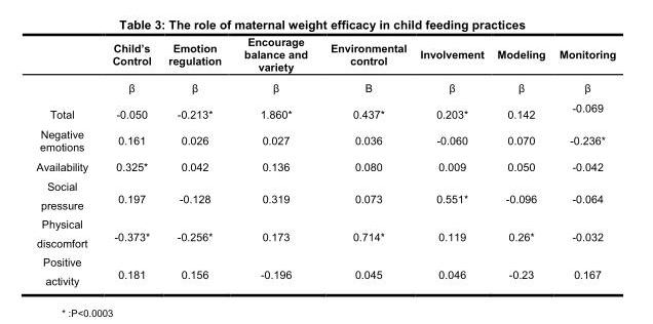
<table><thead><tr><td></td><td>Child’s Control</td><td>Emotion regulation</td><td>Encourage balance and variety</td><td>Environmental control</td><td>Involvement</td><td>Modeling</td><td>Monitoring</td></tr></thead><tbody><tr><td></td><td>β</td><td>β</td><td>β</td><td>Β</td><td>β</td><td>β</td><td>β</td></tr><tr><td>Total</td><td>-0.050</td><td>-0.213*</td><td>1.860*</td><td>0.437*</td><td>0.203*</td><td>0.142</td><td>-0.069</td></tr><tr><td>Negative emotions</td><td>0.161</td><td>0.026</td><td>0.027</td><td>0.036</td><td>-0.060</td><td>0.070</td><td>-0.236*</td></tr><tr><td>Availability</td><td>0.325*</td><td>0.042</td><td>0.136</td><td>0.080</td><td>0.009</td><td>0.050</td><td>-0.042</td></tr><tr><td>Social pressure</td><td>0.197</td><td>-0.128</td><td>0.319</td><td>0.073</td><td>0.551*</td><td>-0.096</td><td>-0.064</td></tr><tr><td>Physical discomfort</td><td>-0.373*</td><td>-0.256*</td><td>0.173</td><td>0.714*</td><td>0.119</td><td>0.26*</td><td>-0.032</td></tr><tr><td>Positive activity</td><td>0.181</td><td>0.156</td><td>-0.196</td><td>0.045</td><td>0.046</td><td>-0.23</td><td>0.167</td></tr></tbody></table>